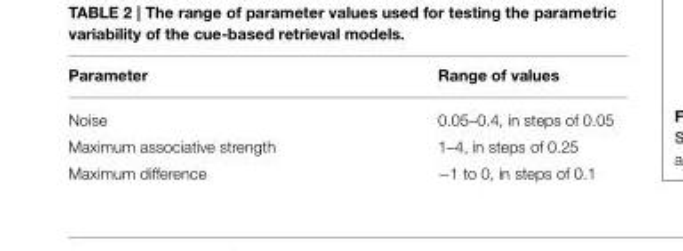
<table><thead><tr><td>Parameter</td><td>Range of values</td></tr></thead><tbody><tr><td>Noise</td><td>0.05–0.4, in steps of 0.05</td></tr><tr><td>Maximum associative strength</td><td>1–4, in steps of 0.25</td></tr><tr><td>Maximum difference</td><td>−1 to 0, in steps of 0.1</td></tr></tbody></table>